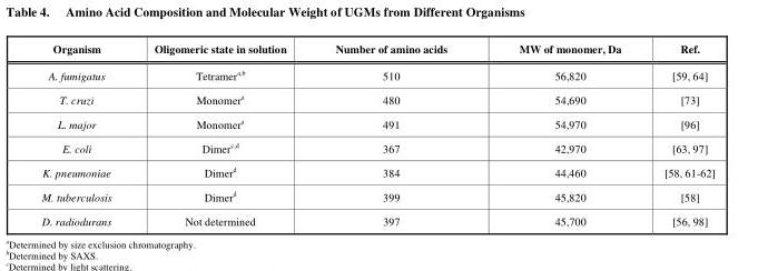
<table><thead><tr><td>Organism</td><td>Oligomeric state in solution</td><td>Number of amino acids</td><td>MW of monomer, Da</td><td>Ref.</td></tr></thead><tbody><tr><td>A. fumigatus</td><td>Tetramer<sup>a</sup>,<sup>b</sup></td><td>510</td><td>56,820</td><td>[59, 64]</td></tr><tr><td>T. cruzi</td><td>Monomer<sup>a</sup></td><td>480</td><td>54,690</td><td>[73]</td></tr><tr><td>L. major</td><td>Monomer<sup>a</sup></td><td>491</td><td>54,970</td><td>[96]</td></tr><tr><td>E. coli</td><td>Dimer<sup>c</sup>,<sup>d</sup></td><td>367</td><td>42,970</td><td>[63, 97]</td></tr><tr><td>K. pneumoniae</td><td>Dimer<sup>d</sup></td><td>384</td><td>44,460</td><td>[58, 61-62]</td></tr><tr><td>M. tuberculosis</td><td>Dimer<sup>d</sup></td><td>399</td><td>45,820</td><td>[58]</td></tr><tr><td>D. radiodurans</td><td>Not determined</td><td>397</td><td>45,700</td><td>[56, 98]</td></tr></tbody></table>